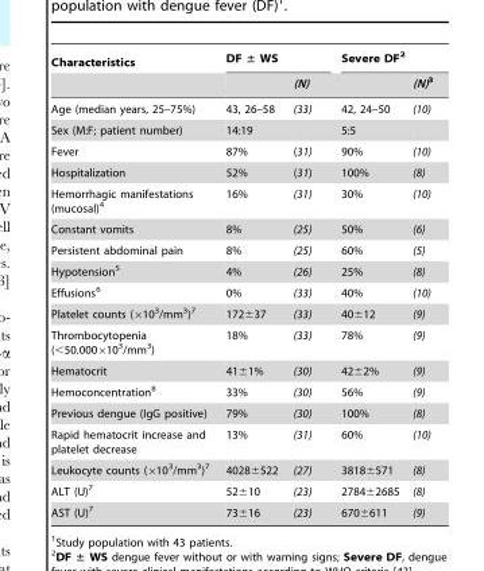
<table><thead><tr><td rowspan="2">Characteristics</td><td colspan="2">DF ± WS</td><td colspan="2">Severe DF<sup>2</sup></td></tr><tr><td></td><td>(N)</td><td></td><td>(N)3</td></tr></thead><tbody><tr><td>Age (median years, 25–75%)</td><td>43, 26–58</td><td>(33)</td><td>42, 24–50</td><td>(10)</td></tr><tr><td>Sex (M:F; patient number)</td><td>14:19</td><td></td><td>5:5</td><td></td></tr><tr><td>Fever</td><td>87%</td><td>(31)</td><td>90%</td><td>(10)</td></tr><tr><td>Hospitalization</td><td>52%</td><td>(31)</td><td>100%</td><td>(8)</td></tr><tr><td>Hemorrhagic manifestations (mucosal)<sup>4</sup></td><td>16%</td><td>(31)</td><td>30%</td><td>(10)</td></tr><tr><td>Constant vomits</td><td>8%</td><td>(25)</td><td>50%</td><td>(6)</td></tr><tr><td>Persistent abdominal pain</td><td>8%</td><td>(25)</td><td>60%</td><td>(5)</td></tr><tr><td>Hypotension<sup>5</sup></td><td>4%</td><td>(26)</td><td>25%</td><td>(8)</td></tr><tr><td>Effusions<sup>6</sup></td><td>0%</td><td>(33)</td><td>40%</td><td>(10)</td></tr><tr><td>Platelet counts (×10<sup>3</sup>/mm<sup>3</sup>)<sup>7</sup></td><td>172±37</td><td>(33)</td><td>40±12</td><td>(9)</td></tr><tr><td>Thrombocytopenia (&lt;50.000×10<sup>3</sup>/mm<sup>3</sup>)</td><td>18%</td><td>(33)</td><td>78%</td><td>(9)</td></tr><tr><td>Hematocrit</td><td>41±1%</td><td>(30)</td><td>42±2%</td><td>(9)</td></tr><tr><td>Hemoconcentration<sup>8</sup></td><td>33%</td><td>(30)</td><td>56%</td><td>(9)</td></tr><tr><td>Previous dengue (IgG positive)</td><td>79%</td><td>(30)</td><td>100%</td><td>(8)</td></tr><tr><td>Rapid hematocrit increase and platelet decrease</td><td>13%</td><td>(31)</td><td>60%</td><td>(10)</td></tr><tr><td>Leukocyte counts (×10<sup>3</sup>/mm<sup>3</sup>)<sup>7</sup></td><td>4028±522</td><td>(27)</td><td>3818±571</td><td>(8)</td></tr><tr><td>ALT (U)<sup>7</sup></td><td>52±10</td><td>(23)</td><td>2784±2685</td><td>(8)</td></tr><tr><td>AST (U)<sup>7</sup></td><td>73±16</td><td>(23)</td><td>670±611</td><td>(9)</td></tr></tbody></table>